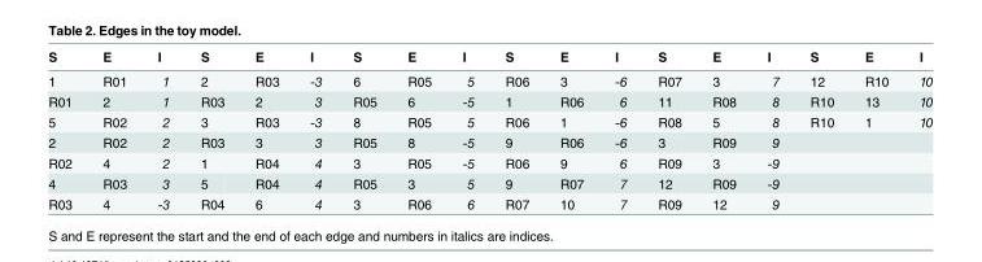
<table><thead><tr><td>S</td><td>E</td><td>I</td><td>S</td><td>E</td><td>I</td><td>S</td><td>E</td><td>I</td><td>S</td><td>E</td><td>I</td><td>S</td><td>E</td><td>I</td><td>S</td><td>E</td><td>I</td></tr></thead><tbody><tr><td>1</td><td>R01</td><td>1</td><td>2</td><td>R03</td><td>-3</td><td>6</td><td>R05</td><td>5</td><td>R06</td><td>3</td><td>-6</td><td>R07</td><td>3</td><td>7</td><td>12</td><td>R10</td><td>10</td></tr><tr><td>R01</td><td>2</td><td>1</td><td>R03</td><td>2</td><td>3</td><td>R05</td><td>6</td><td>-5</td><td>1</td><td>R06</td><td>6</td><td>11</td><td>R08</td><td>8</td><td>R10</td><td>13</td><td>10</td></tr><tr><td>5</td><td>R02</td><td>2</td><td>3</td><td>R03</td><td>-3</td><td>8</td><td>R05</td><td>5</td><td>R06</td><td>1</td><td>-6</td><td>R08</td><td>5</td><td>8</td><td>R10</td><td>1</td><td>10</td></tr><tr><td>2</td><td>R02</td><td>2</td><td>R03</td><td>3</td><td>3</td><td>R05</td><td>8</td><td>-5</td><td>9</td><td>R06</td><td>-6</td><td>3</td><td>R09</td><td>9</td><td></td><td></td><td></td></tr><tr><td>R02</td><td>4</td><td>2</td><td>1</td><td>R04</td><td>4</td><td>3</td><td>R05</td><td>-5</td><td>R06</td><td>9</td><td>6</td><td>R09</td><td>3</td><td>-9</td><td></td><td></td><td></td></tr><tr><td>4</td><td>R03</td><td>3</td><td>5</td><td>R04</td><td>4</td><td>R05</td><td>3</td><td>5</td><td>9</td><td>R07</td><td>7</td><td>12</td><td>R09</td><td>-9</td><td></td><td></td><td></td></tr><tr><td>R03</td><td>4</td><td>-3</td><td>R04</td><td>6</td><td>4</td><td>3</td><td>R06</td><td>6</td><td>R07</td><td>10</td><td>7</td><td>R09</td><td>12</td><td>9</td><td></td><td></td><td></td></tr></tbody></table>